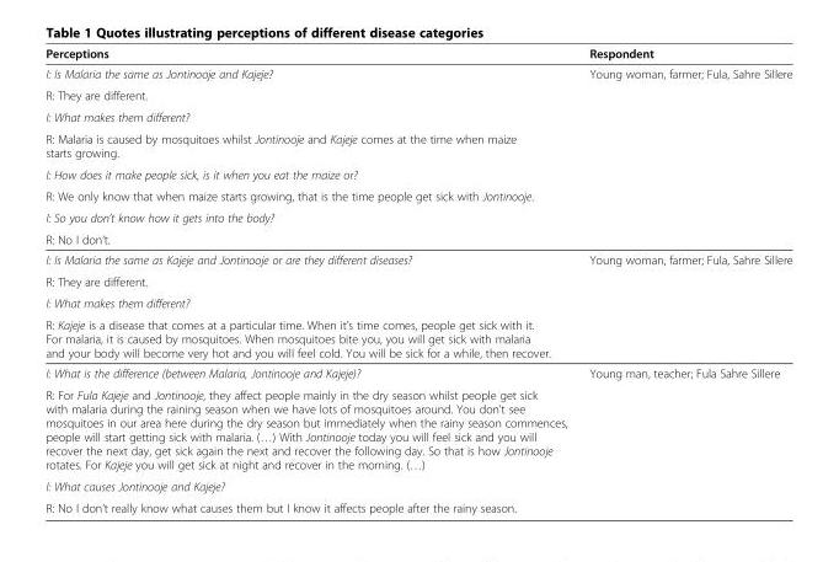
<table><thead><tr><td>Perceptions</td><td>Respondent</td></tr></thead><tbody><tr><td>I: Is Malaria the same as Jontinooje and Kajeje?</td><td rowspan="8">Young woman, farmer; Fula, Sahre Sillere</td></tr><tr><td>R: They are different.</td></tr><tr><td>I: What makes them different?</td></tr><tr><td>R: Malaria is caused by mosquitoes whilst Jontinooje and Kajeje comes at the time when maize starts growing.</td></tr><tr><td>I: How does it make people sick, is it when you eat the maize or?</td></tr><tr><td>R: We only know that when maize starts growing, that is the time people get sick with Jontinooje.</td></tr><tr><td>I: So you don’t know how it gets into the body?</td></tr><tr><td>R: No I don’t.</td></tr><tr><td>I: Is Malaria the same as Kajeje and Jontinooje or are they different diseases?</td><td rowspan="4">Young woman, farmer; Fula, Sahre Sillere</td></tr><tr><td>R: They are different.</td></tr><tr><td>I: What makes them different?</td></tr><tr><td>R: Kajeje is a disease that comes at a particular time. When it’s time comes, people get sick with it. For malaria, it is caused by mosquitoes. When mosquitoes bite you, you will get sick with malaria and your body will become very hot and you will feel cold. You will be sick for a while, then recover.</td></tr><tr><td>I: What is the difference (between Malaria, Jontinooje and Kajeje)?</td><td rowspan="4">Young man, teacher; Fula Sahre Sillere</td></tr><tr><td>R: For Fula Kajeje and Jontinooje, they affect people mainly in the dry season whilst people get sick with malaria during the raining season when we have lots of mosquitoes around. You don’t see mosquitoes in our area here during the dry season but immediately when the rainy season commences, people will start getting sick with malaria. (…) With Jontinooje today you will feel sick and you will recover the next day, get sick again the next and recover the following day. So that is how Jontinooje rotates. For Kajeje you will get sick at night and recover in the morning. (…)</td></tr><tr><td>I: What causes Jontinooje and Kajeje?</td></tr><tr><td>R: No I don’t really know what causes them but I know it affects people after the rainy season.</td></tr></tbody></table>